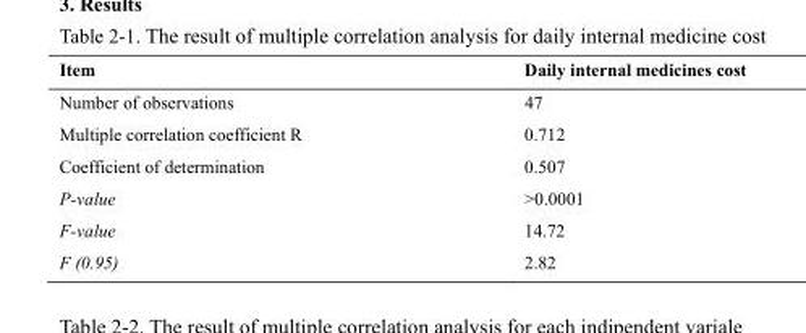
<table><thead><tr><td>Item</td><td>Daily internal medicines cost</td></tr></thead><tbody><tr><td>Number of observations</td><td>47</td></tr><tr><td>Multiple correlation coefficient R</td><td>0.712</td></tr><tr><td>Coefficient of determination</td><td>0.507</td></tr><tr><td>P-value</td><td>&gt;0.0001</td></tr><tr><td>F-value</td><td>14.72</td></tr><tr><td>F (0.95)</td><td>2.82</td></tr></tbody></table>